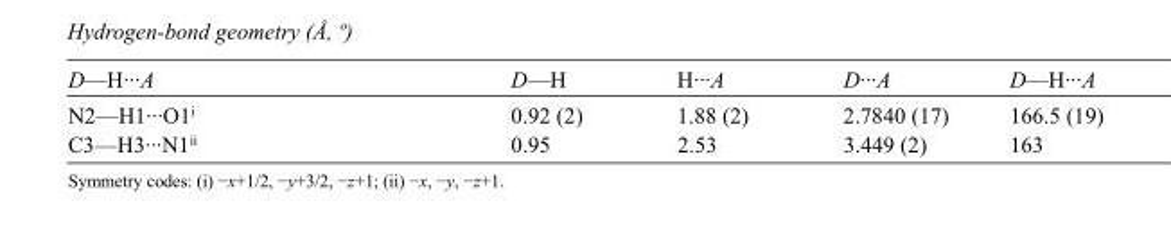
<table><tbody><tr><td>D—H···A</td><td>D—H</td><td>H···A</td><td>D···A</td><td>D—H···A</td></tr><tr><td>N2—H1···O1<sup>i</sup></td><td>0.92 (2)</td><td>1.88 (2)</td><td>2.7840 (17)</td><td>166.5 (19)</td></tr><tr><td>C3—H3···N1<sup>ii</sup></td><td>0.95</td><td>2.53</td><td>3.449 (2)</td><td>163</td></tr></tbody></table>